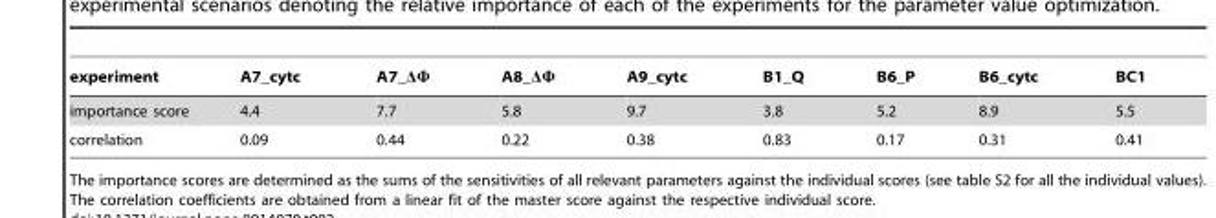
<table><thead><tr><td>experiment</td><td>A7_cytc</td><td>A7_ΔΦ</td><td>A8_ΔΦ</td><td>A9_cytc</td><td>B1_Q</td><td>B6_P</td><td>B6_cytc</td><td>BC1</td></tr></thead><tbody><tr><td>importance score</td><td>4.4</td><td>7.7</td><td>5.8</td><td>9.7</td><td>3.8</td><td>5.2</td><td>8.9</td><td>5.5</td></tr><tr><td>correlation</td><td>0.09</td><td>0.44</td><td>0.22</td><td>0.38</td><td>0.83</td><td>0.17</td><td>0.31</td><td>0.41</td></tr></tbody></table>